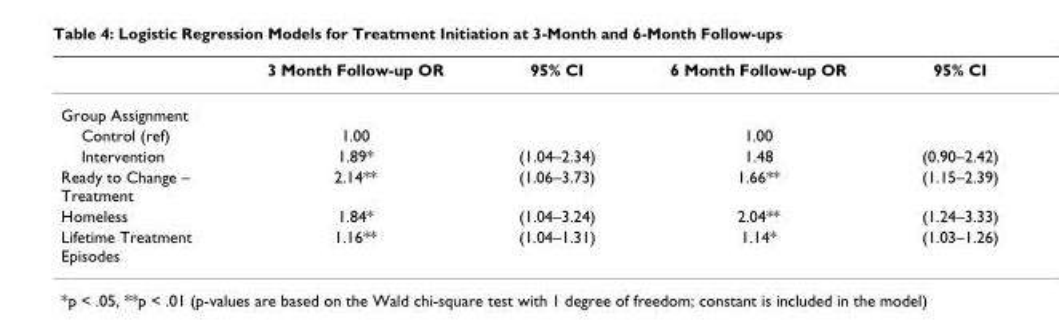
<table><thead><tr><td></td><td>3 Month Follow-up OR</td><td>95% CI</td><td>6 Month Follow-up OR</td><td>95% CI</td></tr></thead><tbody><tr><td colspan="5">Group Assignment</td></tr><tr><td>Control (ref)</td><td>1.00</td><td></td><td>1.00</td><td></td></tr><tr><td>Intervention</td><td>1.89*</td><td>(1.04–2.34)</td><td>1.48</td><td>(0.90–2.42)</td></tr><tr><td>Ready to Change – Treatment</td><td>2.14**</td><td>(1.06–3.73)</td><td>1.66**</td><td>(1.15–2.39)</td></tr><tr><td>Homeless</td><td>1.84*</td><td>(1.04–3.24)</td><td>2.04**</td><td>(1.24–3.33)</td></tr><tr><td>Lifetime Treatment Episodes</td><td>1.16**</td><td>(1.04–1.31)</td><td>1.14*</td><td>(1.03–1.26)</td></tr></tbody></table>